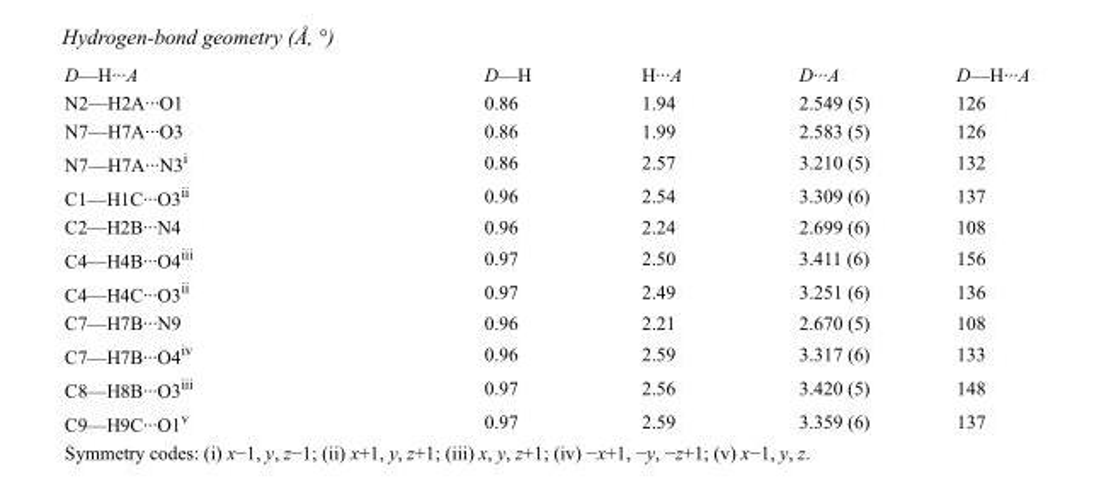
<table><tbody><tr><td>D—H···A</td><td>D—H</td><td>H···A</td><td>D···A</td><td>D—H···A</td></tr><tr><td>N2—H2A···O1</td><td>0.86</td><td>1.94</td><td>2.549 (5)</td><td>126</td></tr><tr><td>N7—H7A···O3</td><td>0.86</td><td>1.99</td><td>2.583 (5)</td><td>126</td></tr><tr><td>N7—H7A···N3<sup>i</sup></td><td>0.86</td><td>2.57</td><td>3.210 (5)</td><td>132</td></tr><tr><td>C1—H1C···O3<sup>ii</sup></td><td>0.96</td><td>2.54</td><td>3.309 (6)</td><td>137</td></tr><tr><td>C2—H2B···N4</td><td>0.96</td><td>2.24</td><td>2.699 (6)</td><td>108</td></tr><tr><td>C4—H4B···O4<sup>iii</sup></td><td>0.97</td><td>2.50</td><td>3.411 (6)</td><td>156</td></tr><tr><td>C4—H4C···O3<sup>ii</sup></td><td>0.97</td><td>2.49</td><td>3.251 (6)</td><td>136</td></tr><tr><td>C7—H7B···N9</td><td>0.96</td><td>2.21</td><td>2.670 (5)</td><td>108</td></tr><tr><td>C7—H7B···O4<sup>iv</sup></td><td>0.96</td><td>2.59</td><td>3.317 (6)</td><td>133</td></tr><tr><td>C8—H8B···O3<sup>iii</sup></td><td>0.97</td><td>2.56</td><td>3.420 (5)</td><td>148</td></tr><tr><td>C9—H9C···O1<sup>v</sup></td><td>0.97</td><td>2.59</td><td>3.359 (6)</td><td>137</td></tr></tbody></table>